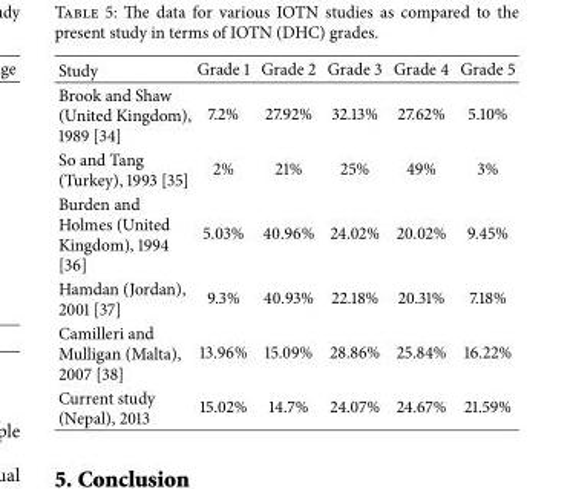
<table><thead><tr><td>Study</td><td>Grade 1</td><td>Grade 2</td><td>Grade 3</td><td>Grade 4</td><td>Grade 5</td></tr></thead><tbody><tr><td>Brook and Shaw (United Kingdom), 1989 [34]</td><td>7.2%</td><td>27.92%</td><td>32.13%</td><td>27.62%</td><td>5.10%</td></tr><tr><td>So and Tang (Turkey), 1993 [35]</td><td>2%</td><td>21%</td><td>25%</td><td>49%</td><td>3%</td></tr><tr><td>Burden and Holmes (United Kingdom), 1994 [36]</td><td>5.03%</td><td>40.96%</td><td>24.02%</td><td>20.02%</td><td>9.45%</td></tr><tr><td>Hamdan (Jordan), 2001 [37]</td><td>9.3%</td><td>40.93%</td><td>22.18%</td><td>20.31%</td><td>7.18%</td></tr><tr><td>Camilleri and Mulligan (Malta), 2007 [38]</td><td>13.96%</td><td>15.09%</td><td>28.86%</td><td>25.84%</td><td>16.22%</td></tr><tr><td>Current study (Nepal), 2013</td><td>15.02%</td><td>14.7%</td><td>24.07%</td><td>24.67%</td><td>21.59%</td></tr></tbody></table>